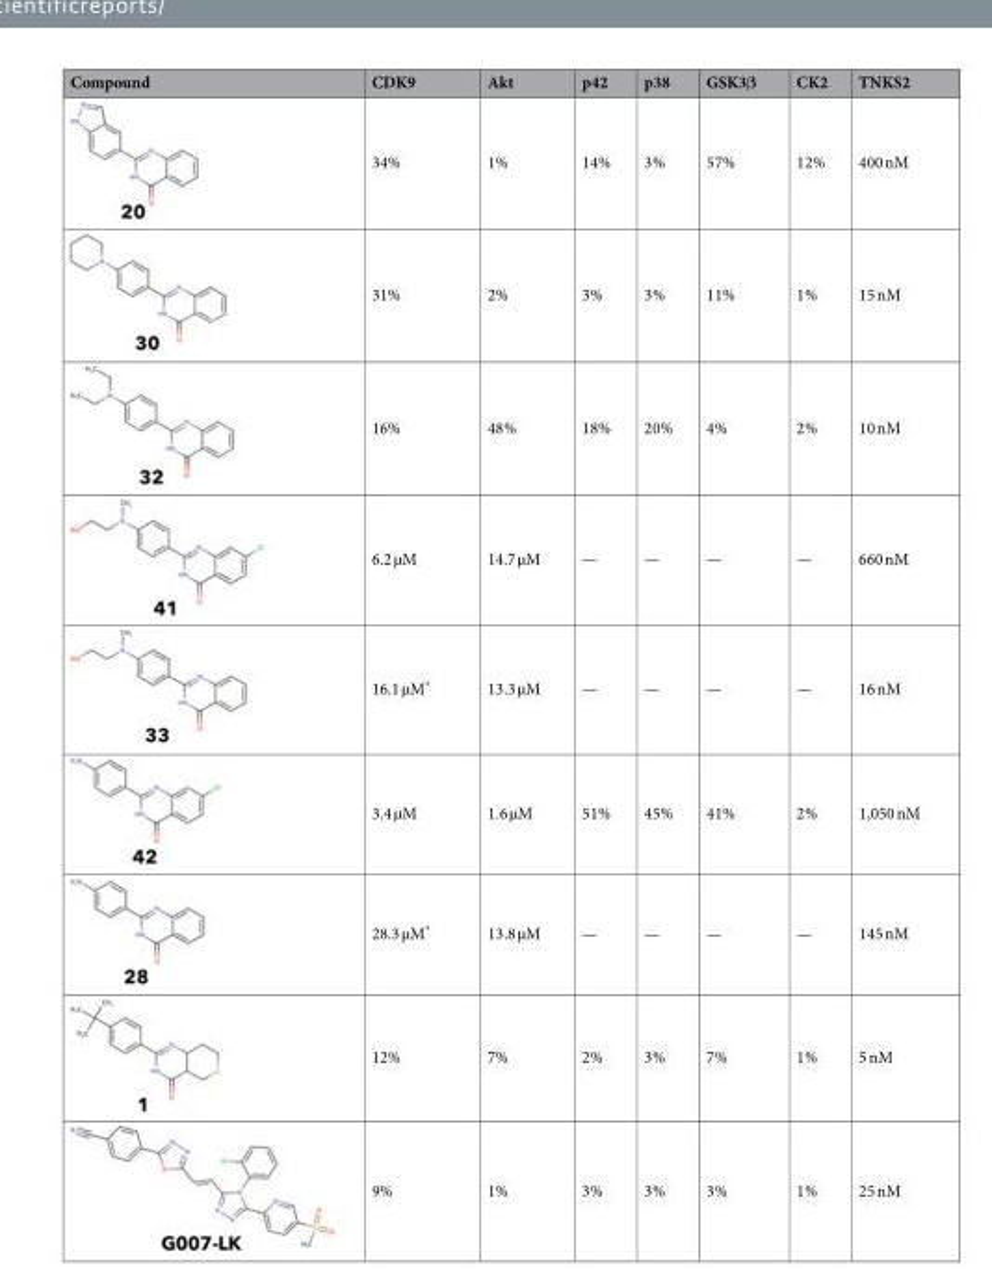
<table><thead><tr><td>Compound</td><td>CDK9</td><td>Akt</td><td>p42</td><td>p38</td><td>GSK3β</td><td>CK2</td><td>TNKS2</td></tr></thead><tbody><tr><td></td><td>34%</td><td>1%</td><td>14%</td><td>3%</td><td>57%</td><td>12%</td><td>400 nM</td></tr><tr><td></td><td>31%</td><td>2%</td><td>3%</td><td>3%</td><td>11%</td><td>1%</td><td>15 nM</td></tr><tr><td></td><td>16%</td><td>48%</td><td>18%</td><td>20%</td><td>4%</td><td>2%</td><td>10 nM</td></tr><tr><td></td><td>6.2 µM</td><td>14.7 µM</td><td>—</td><td>—</td><td>—</td><td>—</td><td>660 nM</td></tr><tr><td></td><td>16.1 µM*</td><td>13.3 µM</td><td>—</td><td>—</td><td>—</td><td>—</td><td>16 nM</td></tr><tr><td></td><td>3.4 µM</td><td>1.6 µM</td><td>51%</td><td>45%</td><td>41%</td><td>2%</td><td>1,050 nM</td></tr><tr><td></td><td>28.3 µM*</td><td>13.8 µM</td><td>—</td><td>—</td><td>—</td><td>—</td><td>145 nM</td></tr><tr><td></td><td>12%</td><td>7%</td><td>2%</td><td>3%</td><td>7%</td><td>1%</td><td>5 nM</td></tr><tr><td></td><td>9%</td><td>1%</td><td>3%</td><td>3%</td><td>3%</td><td>1%</td><td>25 nM</td></tr></tbody></table>